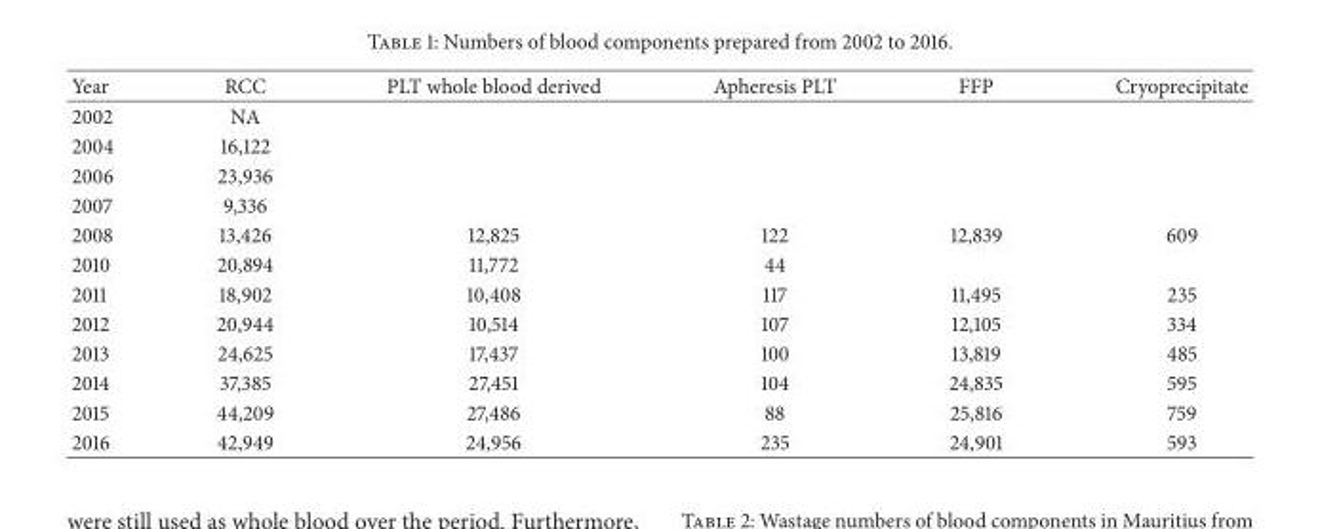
<table><thead><tr><td>Year</td><td>RCC</td><td>PLT whole blood derived</td><td>Apheresis PLT</td><td>FFP</td><td>Cryoprecipitate</td></tr></thead><tbody><tr><td>2002</td><td>NA</td><td></td><td></td><td></td><td></td></tr><tr><td>2004</td><td>16,122</td><td></td><td></td><td></td><td></td></tr><tr><td>2006</td><td>23,936</td><td></td><td></td><td></td><td></td></tr><tr><td>2007</td><td>9,336</td><td></td><td></td><td></td><td></td></tr><tr><td>2008</td><td>13,426</td><td>12,825</td><td>122</td><td>12,839</td><td>609</td></tr><tr><td>2010</td><td>20,894</td><td>11,772</td><td>44</td><td></td><td></td></tr><tr><td>2011</td><td>18,902</td><td>10,408</td><td>117</td><td>11,495</td><td>235</td></tr><tr><td>2012</td><td>20,944</td><td>10,514</td><td>107</td><td>12,105</td><td>334</td></tr><tr><td>2013</td><td>24,625</td><td>17,437</td><td>100</td><td>13,819</td><td>485</td></tr><tr><td>2014</td><td>37,385</td><td>27,451</td><td>104</td><td>24,835</td><td>595</td></tr><tr><td>2015</td><td>44,209</td><td>27,486</td><td>88</td><td>25,816</td><td>759</td></tr><tr><td>2016</td><td>42,949</td><td>24,956</td><td>235</td><td>24,901</td><td>593</td></tr></tbody></table>